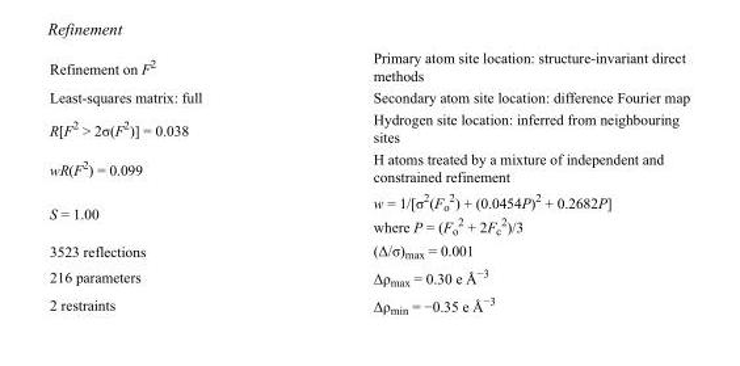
<table><tbody><tr><td>Refinement on F<sup>2</sup></td><td>Primary atom site location: structure-invariant direct methods</td></tr><tr><td>Least-squares matrix: full</td><td>Secondary atom site location: difference Fourier map</td></tr><tr><td>R[F<sup>2</sup> &gt; 2σ(F<sup>2</sup>)] = 0.038</td><td>Hydrogen site location: inferred from neighbouring sites</td></tr><tr><td>wR(F<sup>2</sup>) = 0.099</td><td>H atoms treated by a mixture of independent and constrained refinement</td></tr><tr><td>S = 1.00</td><td>w = 1/[σ<sup>2</sup>(F<sub>o</sub> <sup>2</sup>) + (0.0454P)<sup>2</sup> + 0.2682P] where P = (F<sub>o</sub> <sup>2</sup> + 2F<sub>c</sub> <sup>2</sup>)/3</td></tr><tr><td>3523 reflections</td><td>(Δ/σ)<sub>max</sub> = 0.001</td></tr><tr><td>216 parameters</td><td>Δρ<sub>max</sub> = 0.30 e Å<sup>−3</sup></td></tr><tr><td>2 restraints</td><td>Δρ<sub>min</sub> = −0.35 e Å<sup>−3</sup></td></tr></tbody></table>